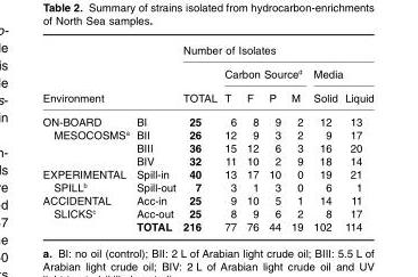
<table><thead><tr><td rowspan="3">Environment</td><td rowspan="3"></td><td colspan="7">Number of Isolates</td></tr><tr><td rowspan="2">TOTAL</td><td colspan="4">Carbon Source<sup>d</sup></td><td colspan="2">Media</td></tr><tr><td>T</td><td>F</td><td>P</td><td>M</td><td>Solid</td><td>Liquid</td></tr></thead><tbody><tr><td rowspan="4">ON-BOARD MESOCOSMS<sup>a</sup></td><td>BI</td><td>25</td><td>6</td><td>8</td><td>9</td><td>2</td><td>12</td><td>13</td></tr><tr><td>BII</td><td>26</td><td>12</td><td>9</td><td>3</td><td>2</td><td>9</td><td>17</td></tr><tr><td>BIII</td><td>36</td><td>15</td><td>12</td><td>6</td><td>3</td><td>16</td><td>20</td></tr><tr><td>BIV</td><td>32</td><td>11</td><td>10</td><td>2</td><td>9</td><td>18</td><td>14</td></tr><tr><td rowspan="2">EXPERIMENTAL SPILL<sup>b</sup></td><td>Spill-in</td><td>40</td><td>13</td><td>17</td><td>10</td><td>0</td><td>19</td><td>21</td></tr><tr><td>Spill-out</td><td>7</td><td>3</td><td>1</td><td>3</td><td>0</td><td>6</td><td>1</td></tr><tr><td rowspan="3">ACCIDENTAL SLICKS<sup>c</sup></td><td>Acc-in</td><td>25</td><td>9</td><td>10</td><td>5</td><td>1</td><td>14</td><td>11</td></tr><tr><td>Acc-out</td><td>25</td><td>8</td><td>9</td><td>6</td><td>2</td><td>8</td><td>17</td></tr><tr><td>TOTAL</td><td>216</td><td>77</td><td>76</td><td>44</td><td>19</td><td>102</td><td>114</td></tr></tbody></table>